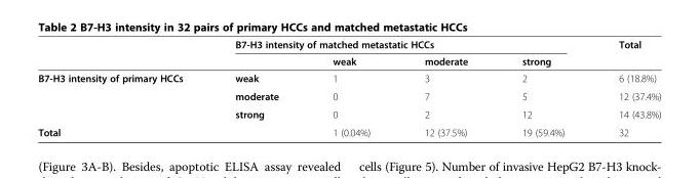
<table><thead><tr><td rowspan="2"></td><td colspan="4">B7-H3 intensity of matched metastatic HCCs</td><td rowspan="2">Total</td></tr><tr><td></td><td>weak</td><td>moderate</td><td>strong</td></tr></thead><tbody><tr><td rowspan="3">B7-H3 intensity of primary HCCs</td><td>weak</td><td>1</td><td>3</td><td>2</td><td>6 (18.8%)</td></tr><tr><td>moderate</td><td>0</td><td>7</td><td>5</td><td>12 (37.4%)</td></tr><tr><td>strong</td><td>0</td><td>2</td><td>12</td><td>14 (43.8%)</td></tr><tr><td>Total</td><td></td><td>1 (0.04%)</td><td>12 (37.5%)</td><td>19 (59.4%)</td><td>32</td></tr></tbody></table>